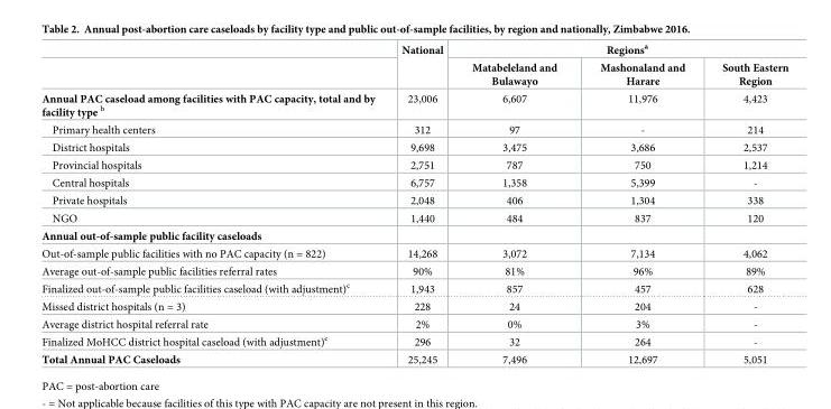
<table><thead><tr><td rowspan="2"></td><td rowspan="2">National</td><td colspan="3">Regions<sup>a</sup></td></tr><tr><td>Matabeleland and Bulawayo</td><td>Mashonaland and Harare</td><td>South Eastern Region</td></tr></thead><tbody><tr><td>Annual PAC caseload among facilities with PAC capacity, total and by facility type <sup>b</sup></td><td>23,006</td><td>6,607</td><td>11,976</td><td>4,423</td></tr><tr><td>Primary health centers</td><td>312</td><td>97</td><td>-</td><td>214</td></tr><tr><td>District hospitals</td><td>9,698</td><td>3,475</td><td>3,686</td><td>2,537</td></tr><tr><td>Provincial hospitals</td><td>2,751</td><td>787</td><td>750</td><td>1,214</td></tr><tr><td>Central hospitals</td><td>6,757</td><td>1,358</td><td>5,399</td><td>-</td></tr><tr><td>Private hospitals</td><td>2,048</td><td>406</td><td>1,304</td><td>338</td></tr><tr><td>NGO</td><td>1,440</td><td>484</td><td>837</td><td>120</td></tr><tr><td colspan="5">Annual out-of-sample public facility caseloads</td></tr><tr><td>Out-of-sample public facilities with no PAC capacity (n = 822)</td><td>14,268</td><td>3,072</td><td>7,134</td><td>4,062</td></tr><tr><td>Average out-of-sample public facilities referral rates</td><td>90%</td><td>81%</td><td>96%</td><td>89%</td></tr><tr><td>Finalized out-of-sample public facilities caseload (with adjustment)<sup>c</sup></td><td>1,943</td><td>857</td><td>457</td><td>628</td></tr><tr><td>Missed district hospitals (n = 3)</td><td>228</td><td>24</td><td>204</td><td>-</td></tr><tr><td>Average district hospital referral rate</td><td>2%</td><td>0%</td><td>3%</td><td>-</td></tr><tr><td>Finalized MoHCC district hospital caseload (with adjustment)<sup>c</sup></td><td>296</td><td>32</td><td>264</td><td>-</td></tr><tr><td>Total Annual PAC Caseloads</td><td>25,245</td><td>7,496</td><td>12,697</td><td>5,051</td></tr></tbody></table>